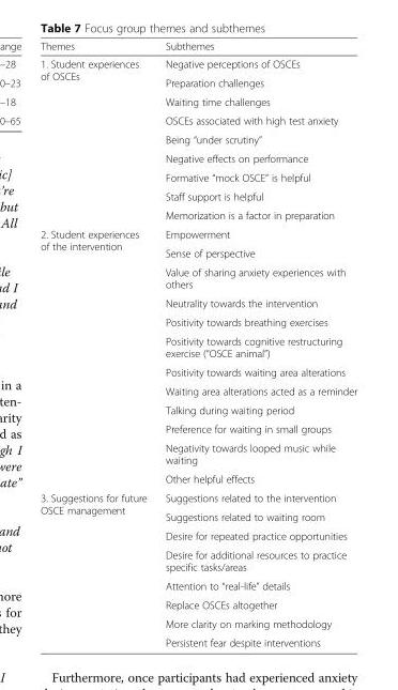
<table><thead><tr><td>Themes</td><td>Subthemes</td></tr></thead><tbody><tr><td rowspan="9">1. Student experiences of OSCEs</td><td>Negative perceptions of OSCEs</td></tr><tr><td>Preparation challenges</td></tr><tr><td>Waiting time challenges</td></tr><tr><td>OSCEs associated with high test anxiety</td></tr><tr><td>Being “under scrutiny”</td></tr><tr><td>Negative effects on performance</td></tr><tr><td>Formative “mock OSCE” is helpful</td></tr><tr><td>Staff support is helpful</td></tr><tr><td>Memorization is a factor in preparation</td></tr><tr><td rowspan="12">2. Student experiences of the intervention</td><td>Empowerment</td></tr><tr><td>Sense of perspective</td></tr><tr><td>Value of sharing anxiety experiences with others</td></tr><tr><td>Neutrality towards the intervention</td></tr><tr><td>Positivity towards breathing exercises</td></tr><tr><td>Positivity towards cognitive restructuring exercise (“OSCE animal”)</td></tr><tr><td>Positivity towards waiting area alterations</td></tr><tr><td>Waiting area alterations acted as a reminder</td></tr><tr><td>Talking during waiting period</td></tr><tr><td>Preference for waiting in small groups</td></tr><tr><td>Negativity towards looped music while waiting</td></tr><tr><td>Other helpful effects</td></tr><tr><td rowspan="8">3. Suggestions for future OSCE management</td><td>Suggestions related to the intervention</td></tr><tr><td>Suggestions related to waiting room</td></tr><tr><td>Desire for repeated practice opportunities</td></tr><tr><td>Desire for additional resources to practice specific tasks/areas</td></tr><tr><td>Attention to “real-life” details</td></tr><tr><td>Replace OSCEs altogether</td></tr><tr><td>More clarity on marking methodology</td></tr><tr><td>Persistent fear despite interventions</td></tr></tbody></table>